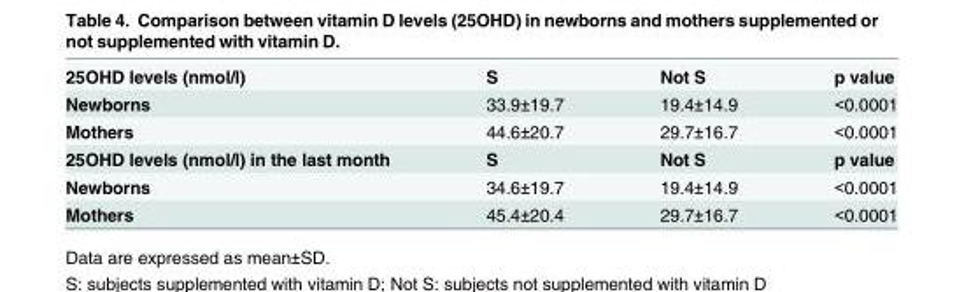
<table><tbody><tr><td>25OHD levels (nmol/l)</td><td>S</td><td>Not S</td><td>p value</td></tr><tr><td>Newborns</td><td>33.9±19.7</td><td>19.4±14.9</td><td>&lt;0.0001</td></tr><tr><td>Mothers</td><td>44.6±20.7</td><td>29.7±16.7</td><td>&lt;0.0001</td></tr><tr><td>25OHD levels (nmol/l) in the last month</td><td>S</td><td>Not S</td><td>p value</td></tr><tr><td>Newborns</td><td>34.6±19.7</td><td>19.4±14.9</td><td>&lt;0.0001</td></tr><tr><td>Mothers</td><td>45.4±20.4</td><td>29.7±16.7</td><td>&lt;0.0001</td></tr></tbody></table>